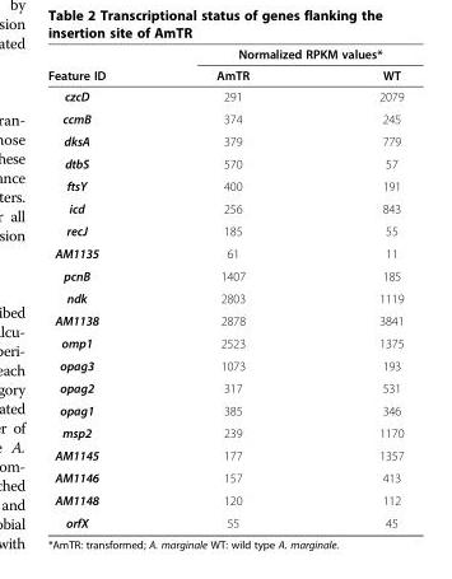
<table><thead><tr><td rowspan="2">Feature ID</td><td colspan="2">Normalized RPKM values*</td></tr><tr><td>AmTR</td><td>WT</td></tr></thead><tbody><tr><td>czcD</td><td>291</td><td>2079</td></tr><tr><td>ccmB</td><td>374</td><td>245</td></tr><tr><td>dksA</td><td>379</td><td>779</td></tr><tr><td>dtbS</td><td>570</td><td>57</td></tr><tr><td>ftsY</td><td>400</td><td>191</td></tr><tr><td>icd</td><td>256</td><td>843</td></tr><tr><td>recJ</td><td>185</td><td>55</td></tr><tr><td>AM1135</td><td>61</td><td>11</td></tr><tr><td>pcnB</td><td>1407</td><td>185</td></tr><tr><td>ndk</td><td>2803</td><td>1119</td></tr><tr><td>AM1138</td><td>2878</td><td>3841</td></tr><tr><td>omp1</td><td>2523</td><td>1375</td></tr><tr><td>opag3</td><td>1073</td><td>193</td></tr><tr><td>opag2</td><td>317</td><td>531</td></tr><tr><td>opag1</td><td>385</td><td>346</td></tr><tr><td>msp2</td><td>239</td><td>1170</td></tr><tr><td>AM1145</td><td>177</td><td>1357</td></tr><tr><td>AM1146</td><td>157</td><td>413</td></tr><tr><td>AM1148</td><td>120</td><td>112</td></tr><tr><td>orfX</td><td>55</td><td>45</td></tr></tbody></table>